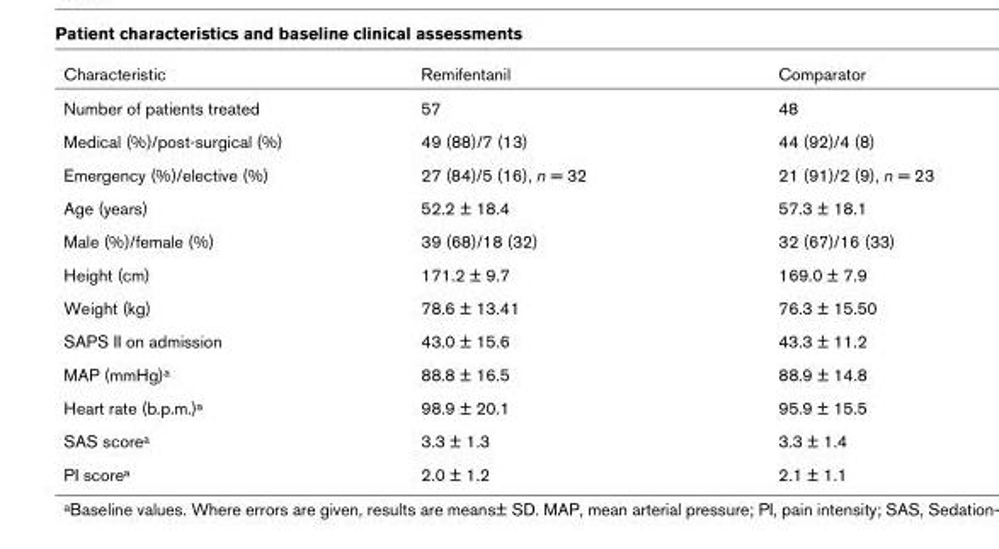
<table><thead><tr><td>Characteristic</td><td>Remifentanil</td><td>Comparator</td></tr></thead><tbody><tr><td>Number of patients treated</td><td>57</td><td>48</td></tr><tr><td>Medical (%)/post-surgical (%)</td><td>49 (88)/7 (13)</td><td>44 (92)/4 (8)</td></tr><tr><td>Emergency (%)/elective (%)</td><td>27 (84)/5 (16), n = 32</td><td>21 (91)/2 (9), n = 23</td></tr><tr><td>Age (years)</td><td>52.2 ± 18.4</td><td>57.3 ± 18.1</td></tr><tr><td>Male (%)/female (%)</td><td>39 (68)/18 (32)</td><td>32 (67)/16 (33)</td></tr><tr><td>Height (cm)</td><td>171.2 ± 9.7</td><td>169.0 ± 7.9</td></tr><tr><td>Weight (kg)</td><td>78.6 ± 13.41</td><td>76.3 ± 15.50</td></tr><tr><td>SAPS II on admission</td><td>43.0 ± 15.6</td><td>43.3 ± 11.2</td></tr><tr><td>MAP (mmHg)a</td><td>88.8 ± 16.5</td><td>88.9 ± 14.8</td></tr><tr><td>Heart rate (b.p.m.)a</td><td>98.9 ± 20.1</td><td>95.9 ± 15.5</td></tr><tr><td>SAS scorea</td><td>3.3 ± 1.3</td><td>3.3 ± 1.4</td></tr><tr><td>PI scorea</td><td>2.0 ± 1.2</td><td>2.1 ± 1.1</td></tr></tbody></table>